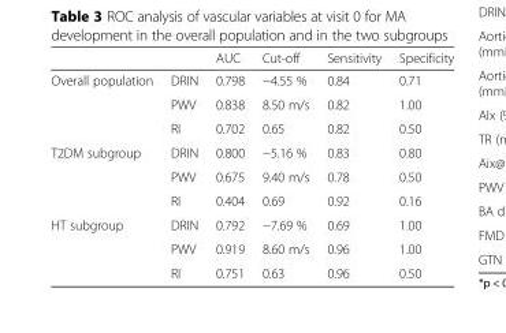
<table><thead><tr><td></td><td></td><td>AUC</td><td>Cut-off</td><td>Sensitivity</td><td>Specificity</td></tr></thead><tbody><tr><td rowspan="3">Overall population</td><td>DRIN</td><td>0.798</td><td>−4.55 %</td><td>0.84</td><td>0.71</td></tr><tr><td>PWV</td><td>0.838</td><td>8.50 m/s</td><td>0.82</td><td>1.00</td></tr><tr><td>RI</td><td>0.702</td><td>0.65</td><td>0.82</td><td>0.50</td></tr><tr><td rowspan="3">T2DM subgroup</td><td>DRIN</td><td>0.800</td><td>−5.16 %</td><td>0.83</td><td>0.80</td></tr><tr><td>PWV</td><td>0.675</td><td>9.40 m/s</td><td>0.78</td><td>0.50</td></tr><tr><td>RI</td><td>0.404</td><td>0.69</td><td>0.92</td><td>0.16</td></tr><tr><td rowspan="3">HT subgroup</td><td>DRIN</td><td>0.792</td><td>−7.69 %</td><td>0.69</td><td>1.00</td></tr><tr><td>PWV</td><td>0.919</td><td>8.60 m/s</td><td>0.96</td><td>1.00</td></tr><tr><td>RI</td><td>0.751</td><td>0.63</td><td>0.96</td><td>0.50</td></tr></tbody></table>